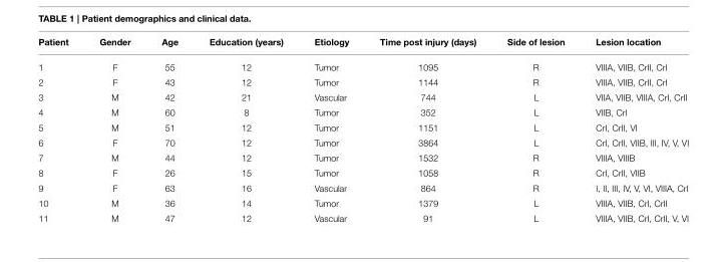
<table><thead><tr><td>Patient</td><td>Gender</td><td>Age</td><td>Education (years)</td><td>Etiology</td><td>Time post injury (days)</td><td>Side of lesion</td><td>Lesion location</td></tr></thead><tbody><tr><td>1</td><td>F</td><td>55</td><td>12</td><td>Tumor</td><td>1095</td><td>R</td><td>VIIIA, VIIB, CrII, CrI</td></tr><tr><td>2</td><td>F</td><td>43</td><td>12</td><td>Tumor</td><td>1144</td><td>R</td><td>VIIIA, VIIB, CrII, CrI</td></tr><tr><td>3</td><td>M</td><td>42</td><td>21</td><td>Vascular</td><td>744</td><td>L</td><td>VIIA, VIIB, VIIIA, CrI, CrII</td></tr><tr><td>4</td><td>M</td><td>60</td><td>8</td><td>Tumor</td><td>352</td><td>L</td><td>VIIB, CrI</td></tr><tr><td>5</td><td>M</td><td>51</td><td>12</td><td>Tumor</td><td>1151</td><td>L</td><td>CrI, CrII, VI</td></tr><tr><td>6</td><td>F</td><td>70</td><td>12</td><td>Tumor</td><td>3864</td><td>L</td><td>CrI, CrII, VIIB, III, IV, V, VI</td></tr><tr><td>7</td><td>M</td><td>44</td><td>12</td><td>Tumor</td><td>1532</td><td>R</td><td>VIIIA, VIIIB</td></tr><tr><td>8</td><td>F</td><td>26</td><td>15</td><td>Tumor</td><td>1058</td><td>R</td><td>CrI, CrII, VIIB</td></tr><tr><td>9</td><td>F</td><td>63</td><td>16</td><td>Vascular</td><td>864</td><td>R</td><td>I, II, III, IV, V, VI, VIIIA, CrI</td></tr><tr><td>10</td><td>M</td><td>36</td><td>14</td><td>Tumor</td><td>1379</td><td>L</td><td>VIIIA, VIIB, CrI, CrII</td></tr><tr><td>11</td><td>M</td><td>47</td><td>12</td><td>Vascular</td><td>91</td><td>L</td><td>VIIIA, VIIB, CrI, CrII, V, VI</td></tr></tbody></table>